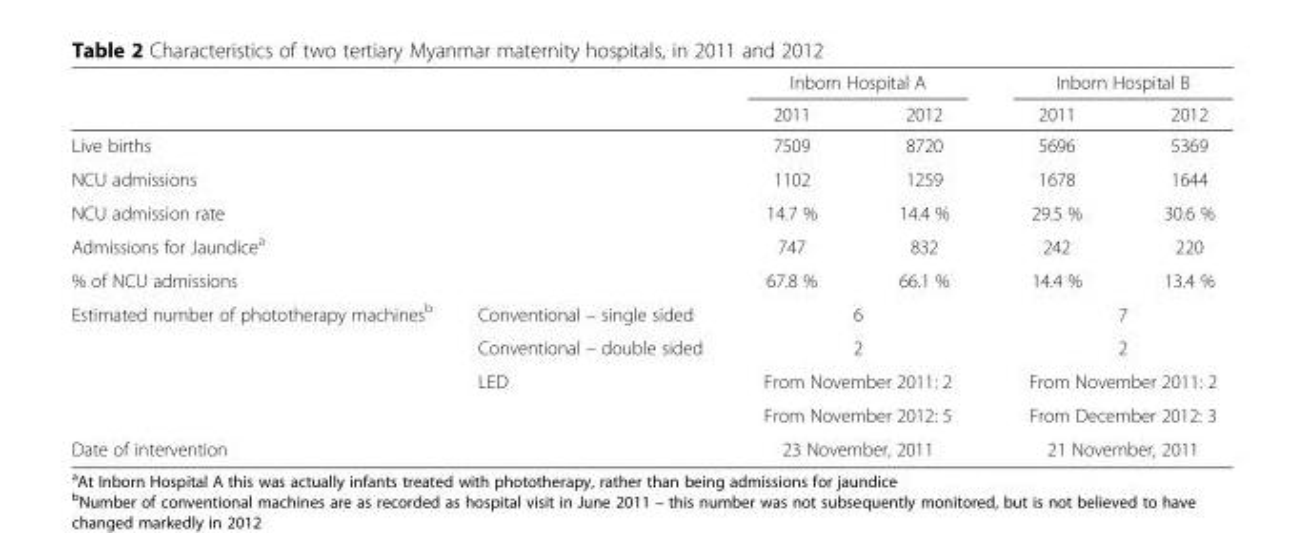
<table><thead><tr><td rowspan="2"></td><td rowspan="2"></td><td colspan="2">Inborn Hospital A</td><td colspan="2">Inborn Hospital B</td></tr><tr><td>2011</td><td>2012</td><td>2011</td><td>2012</td></tr></thead><tbody><tr><td>Live births</td><td></td><td>7509</td><td>8720</td><td>5696</td><td>5369</td></tr><tr><td>NCU admissions</td><td></td><td>1102</td><td>1259</td><td>1678</td><td>1644</td></tr><tr><td>NCU admission rate</td><td></td><td>14.7 %</td><td>14.4 %</td><td>29.5 %</td><td>30.6 %</td></tr><tr><td>Admissions for Jaundice<sup>a</sup></td><td></td><td>747</td><td>832</td><td>242</td><td>220</td></tr><tr><td>% of NCU admissions</td><td></td><td>67.8 %</td><td>66.1 %</td><td>14.4 %</td><td>13.4 %</td></tr><tr><td rowspan="4">Estimated number of phototherapy machines<sup>b</sup></td><td>Conventional – single sided</td><td colspan="2">6</td><td colspan="2">7</td></tr><tr><td>Conventional – double sided</td><td colspan="2">2</td><td colspan="2">2</td></tr><tr><td rowspan="2">LED</td><td colspan="2">From November 2011: 2</td><td colspan="2">From November 2011: 2</td></tr><tr><td colspan="2">From November 2012: 5</td><td colspan="2">From December 2012: 3</td></tr><tr><td>Date of intervention</td><td></td><td colspan="2">23 November, 2011</td><td colspan="2">21 November, 2011</td></tr></tbody></table>